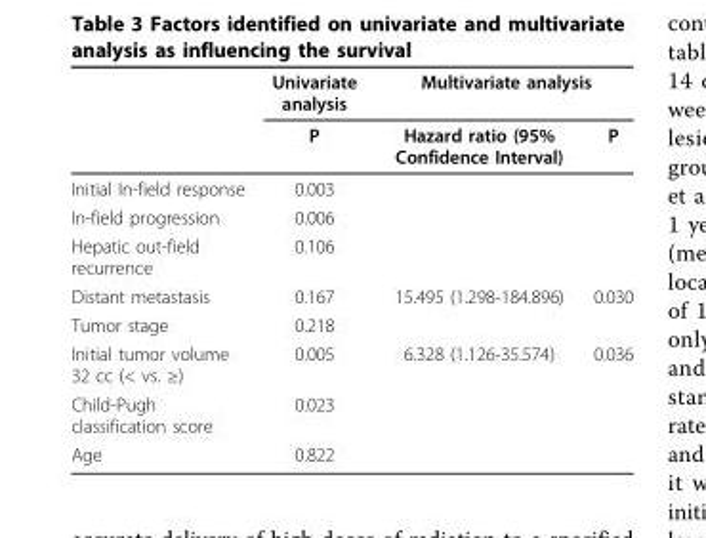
<table><thead><tr><td rowspan="2"></td><td rowspan="2">Univariate analysis P</td><td colspan="2">Multivariate analysis</td></tr><tr><td>Hazard ratio (95% Confidence Interval)</td><td>P</td></tr></thead><tbody><tr><td>Initial In-field response</td><td>0.003</td><td></td><td></td></tr><tr><td>In-field progression</td><td>0.006</td><td></td><td></td></tr><tr><td>Hepatic out-field recurrence</td><td>0.106</td><td></td><td></td></tr><tr><td>Distant metastasis</td><td>0.167</td><td>15.495 (1.298-184.896)</td><td>0.030</td></tr><tr><td>Tumor stage</td><td>0.218</td><td></td><td></td></tr><tr><td>Initial tumor volume 32 cc (&lt; vs. ≥)</td><td>0.005</td><td>6.328 (1.126-35.574)</td><td>0.036</td></tr><tr><td>Child-Pugh classification score</td><td>0.023</td><td></td><td></td></tr><tr><td>Age</td><td>0.822</td><td></td><td></td></tr></tbody></table>